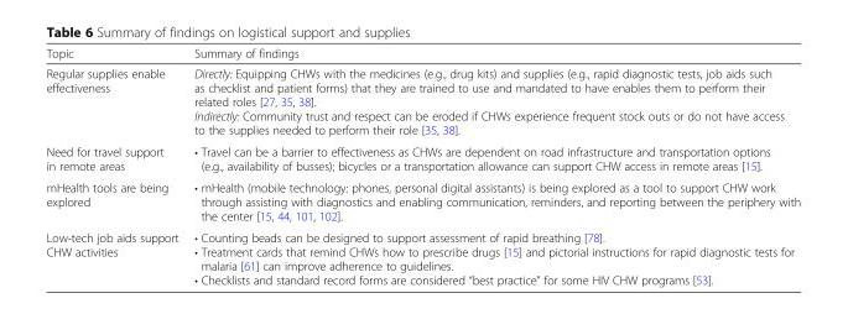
<table><thead><tr><td>Topic</td><td>Summary of findings</td></tr></thead><tbody><tr><td>Regular supplies enable effectiveness</td><td>Directly: Equipping CHWs with the medicines (e.g., drug kits) and supplies (e.g., rapid diagnostic tests, job aids such as checklist and patient forms) that they are trained to use and mandated to have enables them to perform their related roles [27, 35, 38]. Indirectly: Community trust and respect can be eroded if CHWs experience frequent stock outs or do not have access to the supplies needed to perform their role [35, 38].</td></tr><tr><td>Need for travel support in remote areas</td><td>• Travel can be a barrier to effectiveness as CHWs are dependent on road infrastructure and transportation options (e.g., availability of busses); bicycles or a transportation allowance can support CHW access in remote areas [15].</td></tr><tr><td>mHealth tools are being explored</td><td>• mHealth (mobile technology: phones, personal digital assistants) is being explored as a tool to support CHW work through assisting with diagnostics and enabling communication, reminders, and reporting between the periphery with the center [15, 44, 101, 102].</td></tr><tr><td>Low-tech job aids support CHW activities</td><td>• Counting beads can be designed to support assessment of rapid breathing [78]. • Treatment cards that remind CHWs how to prescribe drugs [15] and pictorial instructions for rapid diagnostic tests for malaria [61] can improve adherence to guidelines. • Checklists and standard record forms are considered “best practice” for some HIV CHW programs [53].</td></tr></tbody></table>